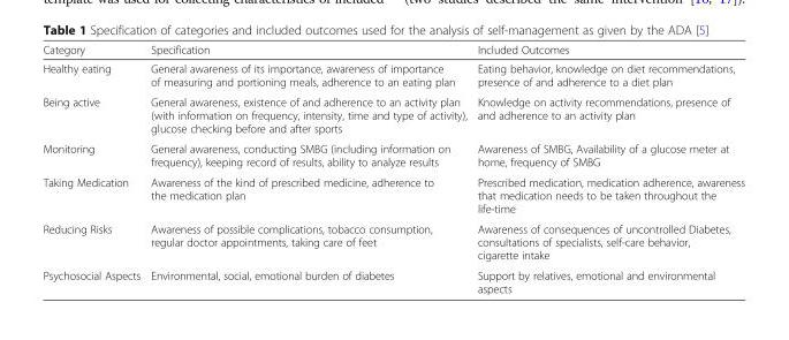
<table><thead><tr><td>Category</td><td>Specification</td><td>Included Outcomes</td></tr></thead><tbody><tr><td>Healthy eating</td><td>General awareness of its importance, awareness of importance of measuring and portioning meals, adherence to an eating plan</td><td>Eating behavior, knowledge on diet recommendations, presence of and adherence to a diet plan</td></tr><tr><td>Being active</td><td>General awareness, existence of and adherence to an activity plan (with information on frequency, intensity, time and type of activity), glucose checking before and after sports</td><td>Knowledge on activity recommendations, presence of and adherence to an activity plan</td></tr><tr><td>Monitoring</td><td>General awareness, conducting SMBG (including information on frequency), keeping record of results, ability to analyze results</td><td>Awareness of SMBG, Availability of a glucose meter at home, frequency of SMBG</td></tr><tr><td>Taking Medication</td><td>Awareness of the kind of prescribed medicine, adherence to the medication plan</td><td>Prescribed medication, medication adherence, awareness that medication needs to be taken throughout the life-time</td></tr><tr><td>Reducing Risks</td><td>Awareness of possible complications, tobacco consumption, regular doctor appointments, taking care of feet</td><td>Awareness of consequences of uncontrolled Diabetes, consultations of specialists, self-care behavior, cigarette intake</td></tr><tr><td>Psychosocial Aspects</td><td>Environmental, social, emotional burden of diabetes</td><td>Support by relatives, emotional and environmental aspects</td></tr></tbody></table>